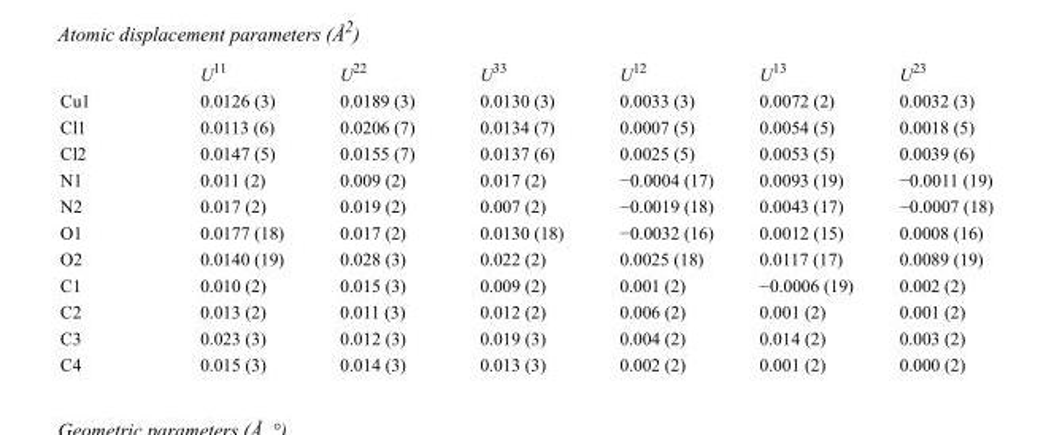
<table><thead><tr><td></td><td>U<sup>11</sup></td><td>U<sup>22</sup></td><td>U<sup>33</sup></td><td>U<sup>12</sup></td><td>U<sup>13</sup></td><td>U<sup>23</sup></td></tr></thead><tbody><tr><td>Cu1</td><td>0.0126 (3)</td><td>0.0189 (3)</td><td>0.0130 (3)</td><td>0.0033 (3)</td><td>0.0072 (2)</td><td>0.0032 (3)</td></tr><tr><td>Cl1</td><td>0.0113 (6)</td><td>0.0206 (7)</td><td>0.0134 (7)</td><td>0.0007 (5)</td><td>0.0054 (5)</td><td>0.0018 (5)</td></tr><tr><td>Cl2</td><td>0.0147 (5)</td><td>0.0155 (7)</td><td>0.0137 (6)</td><td>0.0025 (5)</td><td>0.0053 (5)</td><td>0.0039 (6)</td></tr><tr><td>N1</td><td>0.011 (2)</td><td>0.009 (2)</td><td>0.017 (2)</td><td>−0.0004 (17)</td><td>0.0093 (19)</td><td>−0.0011 (19)</td></tr><tr><td>N2</td><td>0.017 (2)</td><td>0.019 (2)</td><td>0.007 (2)</td><td>−0.0019 (18)</td><td>0.0043 (17)</td><td>−0.0007 (18)</td></tr><tr><td>O1</td><td>0.0177 (18)</td><td>0.017 (2)</td><td>0.0130 (18)</td><td>−0.0032 (16)</td><td>0.0012 (15)</td><td>0.0008 (16)</td></tr><tr><td>O2</td><td>0.0140 (19)</td><td>0.028 (3)</td><td>0.022 (2)</td><td>0.0025 (18)</td><td>0.0117 (17)</td><td>0.0089 (19)</td></tr><tr><td>C1</td><td>0.010 (2)</td><td>0.015 (3)</td><td>0.009 (2)</td><td>0.001 (2)</td><td>−0.0006 (19)</td><td>0.002 (2)</td></tr><tr><td>C2</td><td>0.013 (2)</td><td>0.011 (3)</td><td>0.012 (2)</td><td>0.006 (2)</td><td>0.001 (2)</td><td>0.001 (2)</td></tr><tr><td>C3</td><td>0.023 (3)</td><td>0.012 (3)</td><td>0.019 (3)</td><td>0.004 (2)</td><td>0.014 (2)</td><td>0.003 (2)</td></tr><tr><td>C4</td><td>0.015 (3)</td><td>0.014 (3)</td><td>0.013 (3)</td><td>0.002 (2)</td><td>0.001 (2)</td><td>0.000 (2)</td></tr></tbody></table>